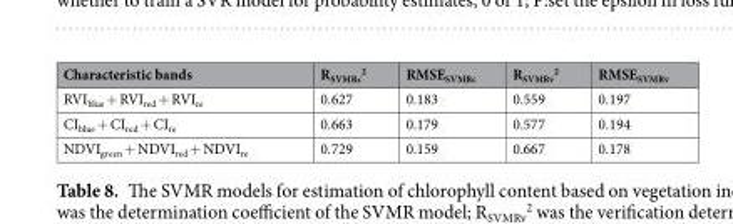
<table><thead><tr><td>Characteristic bands</td><td>R<sub>SVMRc</sub> <sup>2</sup></td><td>RMSE<sub>SVMRc</sub></td><td>R<sub>SVMRv</sub> <sup>2</sup></td><td>RMSE<sub>SVMRv</sub></td></tr></thead><tbody><tr><td>RVI<sub>blue</sub> + RVI<sub>red</sub> + RVI<sub>re</sub></td><td>0.627</td><td>0.183</td><td>0.559</td><td>0.197</td></tr><tr><td>CI<sub>blue</sub> + CI<sub>red</sub> + CI<sub>re</sub></td><td>0.663</td><td>0.179</td><td>0.577</td><td>0.194</td></tr><tr><td>NDVI<sub>green</sub> + NDVI<sub>red</sub> + NDVI<sub>re</sub></td><td>0.729</td><td>0.159</td><td>0.667</td><td>0.178</td></tr></tbody></table>